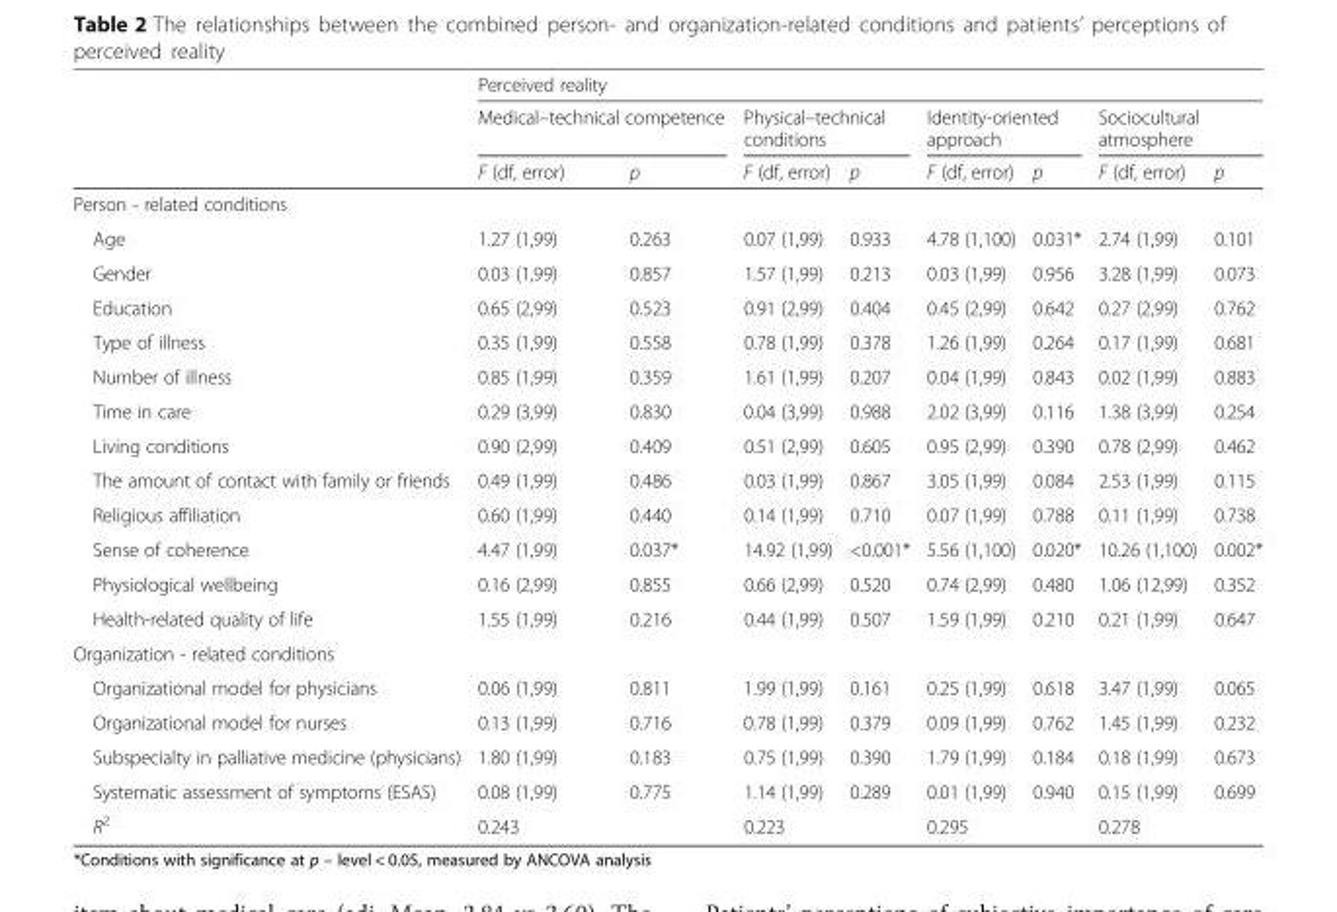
<table><thead><tr><td rowspan="3"></td><td colspan="8">Perceived reality</td></tr><tr><td colspan="2">Medical–technical competence</td><td colspan="2">Physical–technical conditions</td><td colspan="2">Identity-oriented approach</td><td colspan="2">Sociocultural atmosphere</td></tr><tr><td>F (df, error)</td><td>p</td><td>F (df, error)</td><td>p</td><td>F (df, error)</td><td>p</td><td>F (df, error)</td><td>p</td></tr></thead><tbody><tr><td colspan="9">Person - related conditions</td></tr><tr><td>Age</td><td>1.27 (1,99)</td><td>0.263</td><td>0.07 (1,99)</td><td>0.933</td><td>4.78 (1,100)</td><td>0.031*</td><td>2.74 (1,99)</td><td>0.101</td></tr><tr><td>Gender</td><td>0.03 (1,99)</td><td>0.857</td><td>1.57 (1,99)</td><td>0.213</td><td>0.03 (1,99)</td><td>0.956</td><td>3.28 (1,99)</td><td>0.073</td></tr><tr><td>Education</td><td>0.65 (2,99)</td><td>0.523</td><td>0.91 (2,99)</td><td>0.404</td><td>0.45 (2,99)</td><td>0.642</td><td>0.27 (2,99)</td><td>0.762</td></tr><tr><td>Type of illness</td><td>0.35 (1,99)</td><td>0.558</td><td>0.78 (1,99)</td><td>0.378</td><td>1.26 (1,99)</td><td>0.264</td><td>0.17 (1,99)</td><td>0.681</td></tr><tr><td>Number of illness</td><td>0.85 (1,99)</td><td>0.359</td><td>1.61 (1,99)</td><td>0.207</td><td>0.04 (1,99)</td><td>0.843</td><td>0.02 (1,99)</td><td>0.883</td></tr><tr><td>Time in care</td><td>0.29 (3,99)</td><td>0.830</td><td>0.04 (3,99)</td><td>0.988</td><td>2.02 (3,99)</td><td>0.116</td><td>1.38 (3,99)</td><td>0.254</td></tr><tr><td>Living conditions</td><td>0.90 (2,99)</td><td>0.409</td><td>0.51 (2,99)</td><td>0.605</td><td>0.95 (2,99)</td><td>0.390</td><td>0.78 (2,99)</td><td>0.462</td></tr><tr><td>The amount of contact with family or friends</td><td>0.49 (1,99)</td><td>0.486</td><td>0.03 (1,99)</td><td>0.867</td><td>3.05 (1,99)</td><td>0.084</td><td>2.53 (1,99)</td><td>0.115</td></tr><tr><td>Religious affiliation</td><td>0.60 (1,99)</td><td>0.440</td><td>0.14 (1,99)</td><td>0.710</td><td>0.07 (1,99)</td><td>0.788</td><td>0.11 (1,99)</td><td>0.738</td></tr><tr><td>Sense of coherence</td><td>4.47 (1,99)</td><td>0.037*</td><td>14.92 (1,99)</td><td>&lt;0.001*</td><td>5.56 (1,100)</td><td>0.020*</td><td>10.26 (1,100)</td><td>0.002*</td></tr><tr><td>Physiological wellbeing</td><td>0.16 (2,99)</td><td>0.855</td><td>0.66 (2,99)</td><td>0.520</td><td>0.74 (2,99)</td><td>0.480</td><td>1.06 (12,99)</td><td>0.352</td></tr><tr><td>Health-related quality of life</td><td>1.55 (1,99)</td><td>0.216</td><td>0.44 (1,99)</td><td>0.507</td><td>1.59 (1,99)</td><td>0.210</td><td>0.21 (1,99)</td><td>0.647</td></tr><tr><td colspan="9">Organization - related conditions</td></tr><tr><td>Organizational model for physicians</td><td>0.06 (1,99)</td><td>0.811</td><td>1.99 (1,99)</td><td>0.161</td><td>0.25 (1,99)</td><td>0.618</td><td>3.47 (1,99)</td><td>0.065</td></tr><tr><td>Organizational model for nurses</td><td>0.13 (1,99)</td><td>0.716</td><td>0.78 (1,99)</td><td>0.379</td><td>0.09 (1,99)</td><td>0.762</td><td>1.45 (1,99)</td><td>0.232</td></tr><tr><td>Subspecialty in palliative medicine (physicians)</td><td>1.80 (1,99)</td><td>0.183</td><td>0.75 (1,99)</td><td>0.390</td><td>1.79 (1,99)</td><td>0.184</td><td>0.18 (1,99)</td><td>0.673</td></tr><tr><td>Systematic assessment of symptoms (ESAS)</td><td>0.08 (1,99)</td><td>0.775</td><td>1.14 (1,99)</td><td>0.289</td><td>0.01 (1,99)</td><td>0.940</td><td>0.15 (1,99)</td><td>0.699</td></tr><tr><td>R<sup>2</sup></td><td>0.243</td><td></td><td>0.223</td><td></td><td>0.295</td><td></td><td>0.278</td><td></td></tr></tbody></table>